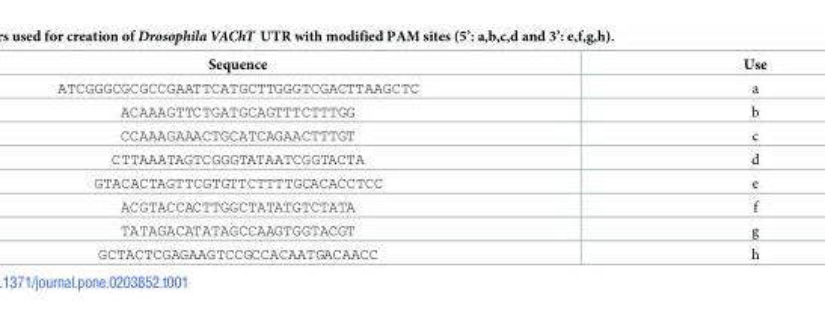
<table><thead><tr><td>Sequence</td><td>Use</td></tr></thead><tbody><tr><td>ATCGGGCGCGCCGAATTCATGCTTGGGTCGACTTAAGCTC</td><td>a</td></tr><tr><td>ACAAAGTTCTGATGCAGTTTCTTTGG</td><td>b</td></tr><tr><td>CCAAAGAAACTGCATCAGAACTTTGT</td><td>c</td></tr><tr><td>CTTAAATAGTCGGGTATAATCGGTACTA</td><td>d</td></tr><tr><td>GTACACTAGTTCGTGTTCTTTTGCACACCTCC</td><td>e</td></tr><tr><td>ACGTACCACTTGGCTATATGTCTATA</td><td>f</td></tr><tr><td>TATAGACATATAGCCAAGTGGTACGT</td><td>g</td></tr><tr><td>GCTACTCGAGAAGTCCGCCACAATGACAACC</td><td>h</td></tr></tbody></table>